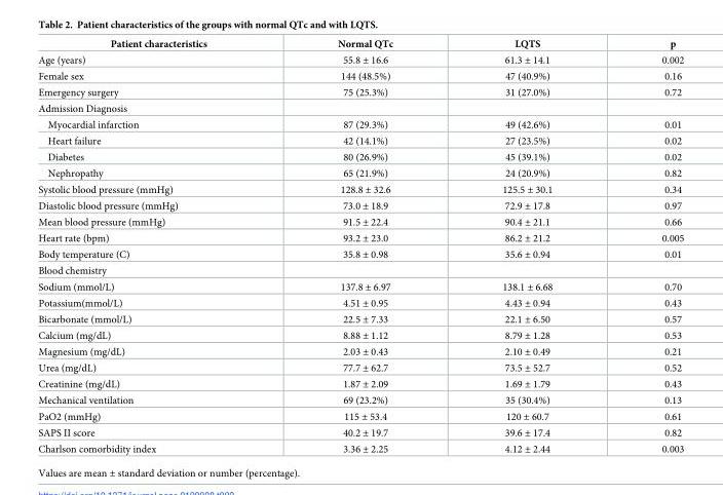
<table><thead><tr><td>Patient characteristics</td><td>Normal QTc</td><td>LQTS</td><td>p</td></tr></thead><tbody><tr><td>Age (years)</td><td>55.8 ± 16.6</td><td>61.3 ± 14.1</td><td>0.002</td></tr><tr><td>Female sex</td><td>144 (48.5%)</td><td>47 (40.9%)</td><td>0.16</td></tr><tr><td>Emergency surgery</td><td>75 (25.3%)</td><td>31 (27.0%)</td><td>0.72</td></tr><tr><td colspan="4">Admission Diagnosis</td></tr><tr><td>Myocardial infarction</td><td>87 (29.3%)</td><td>49 (42.6%)</td><td>0.01</td></tr><tr><td>Heart failure</td><td>42 (14.1%)</td><td>27 (23.5%)</td><td>0.02</td></tr><tr><td>Diabetes</td><td>80 (26.9%)</td><td>45 (39.1%)</td><td>0.02</td></tr><tr><td>Nephropathy</td><td>65 (21.9%)</td><td>24 (20.9%)</td><td>0.82</td></tr><tr><td>Systolic blood pressure (mmHg)</td><td>128.8 ± 32.6</td><td>125.5 ± 30.1</td><td>0.34</td></tr><tr><td>Diastolic blood pressure (mmHg)</td><td>73.0 ± 18.9</td><td>72.9 ± 17.8</td><td>0.97</td></tr><tr><td>Mean blood pressure (mmHg)</td><td>91.5 ± 22.4</td><td>90.4 ± 21.1</td><td>0.66</td></tr><tr><td>Heart rate (bpm)</td><td>93.2 ± 23.0</td><td>86.2 ± 21.2</td><td>0.005</td></tr><tr><td>Body temperature (C)</td><td>35.8 ± 0.98</td><td>35.6 ± 0.94</td><td>0.01</td></tr><tr><td colspan="4">Blood chemistry</td></tr><tr><td>Sodium (mmol/L)</td><td>137.8 ± 6.97</td><td>138.1 ± 6.68</td><td>0.70</td></tr><tr><td>Potassium(mmol/L)</td><td>4.51 ± 0.95</td><td>4.43 ± 0.94</td><td>0.43</td></tr><tr><td>Bicarbonate (mmol/L)</td><td>22.5 ± 7.33</td><td>22.1 ± 6.50</td><td>0.57</td></tr><tr><td>Calcium (mg/dL)</td><td>8.88 ± 1.12</td><td>8.79 ± 1.28</td><td>0.53</td></tr><tr><td>Magnesium (mg/dL)</td><td>2.03 ± 0.43</td><td>2.10 ± 0.49</td><td>0.21</td></tr><tr><td>Urea (mg/dL)</td><td>77.7 ± 62.7</td><td>73.5 ± 52.7</td><td>0.52</td></tr><tr><td>Creatinine (mg/dL)</td><td>1.87 ± 2.09</td><td>1.69 ± 1.79</td><td>0.43</td></tr><tr><td>Mechanical ventilation</td><td>69 (23.2%)</td><td>35 (30.4%)</td><td>0.13</td></tr><tr><td>PaO2 (mmHg)</td><td>115 ± 53.4</td><td>120 ± 60.7</td><td>0.61</td></tr><tr><td>SAPS II score</td><td>40.2 ± 19.7</td><td>39.6 ± 17.4</td><td>0.82</td></tr><tr><td>Charlson comorbidity index</td><td>3.36 ± 2.25</td><td>4.12 ± 2.44</td><td>0.003</td></tr></tbody></table>